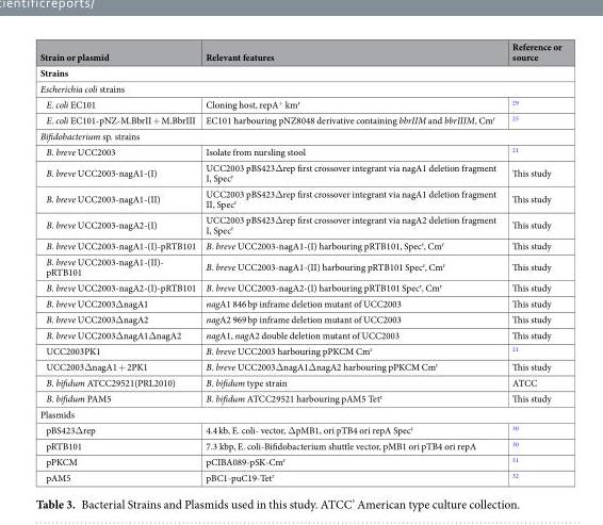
<table><thead><tr><td>Strain or plasmid</td><td>Relevant features</td><td>Reference or source</td></tr></thead><tbody><tr><td colspan="3">Strains</td></tr><tr><td colspan="3">Escherichia coli strains</td></tr><tr><td>E. coli EC101</td><td>Cloning host, repA<sup>+</sup> km<sup>r</sup></td><td><sup>29</sup></td></tr><tr><td>E. coli EC101-pNZ-M.BbrII + M.BbrIII</td><td>EC101 harbouring pNZ8048 derivative containing bbrIIM and bbrIIIM, Cm<sup>r</sup></td><td><sup>25</sup></td></tr><tr><td colspan="3">Bifidobacterium sp. strains</td></tr><tr><td>B. breve UCC2003</td><td>Isolate from nursling stool</td><td><sup>21</sup></td></tr><tr><td>B. breve UCC2003-nagA1-(I)</td><td>UCC2003 pBS423Δrep first crossover integrant via nagA1 deletion fragment I, Spec<sup>r</sup></td><td>This study</td></tr><tr><td>B. breve UCC2003-nagA1-(II)</td><td>UCC2003 pBS423Δrep first crossover integrant via nagA1 deletion fragment II, Spec<sup>r</sup></td><td>This study</td></tr><tr><td>B. breve UCC2003-nagA2-(I)</td><td>UCC2003 pBS423Δrep first crossover integrant via nagA2 deletion fragment I, Spec<sup>r</sup></td><td>This study</td></tr><tr><td>B. breve UCC2003-nagA1-(I)-pRTB101</td><td>B. breve UCC2003-nagA1-(I) harbouring pRTB101, Spec<sup>r</sup>, Cm<sup>r</sup></td><td>This study</td></tr><tr><td>B. breve UCC2003-nagA1-(II)- pRTB101</td><td>B. breve UCC2003-nagA1-(II) harbouring pRTB101 Spec<sup>r</sup>, Cm<sup>r</sup></td><td>This study</td></tr><tr><td>B. breve UCC2003-nagA2-(I)-pRTB101</td><td>B. breve UCC2003-nagA2-(I) harbouring pRTB101 Spec<sup>r</sup>, Cm<sup>r</sup></td><td>This study</td></tr><tr><td>B. breve UCC2003ΔnagA1</td><td>nagA1 846 bp inframe deletion mutant of UCC2003</td><td>This study</td></tr><tr><td>B. breve UCC2003ΔnagA2</td><td>nagA2 969 bp inframe deletion mutant of UCC2003</td><td>This study</td></tr><tr><td>B. breve UCC2003ΔnagA1ΔnagA2</td><td>nagA1, nagA2 double deletion mutant of UCC2003</td><td>This study</td></tr><tr><td>UCC2003PK1</td><td>B. breve UCC2003 harbouring pPKCM Cm<sup>r</sup></td><td><sup>21</sup></td></tr><tr><td>UCC2003ΔnagA1 + 2PK1</td><td>B. breve UCC2003ΔnagA1ΔnagA2 harbouring pPKCM Cm<sup>r</sup></td><td>This study</td></tr><tr><td>B. bifidum ATCC29521(PRL2010)</td><td>B. bifidum type strain</td><td>ATCC</td></tr><tr><td>B. bifidum PAM5</td><td>B. bifidum ATCC29521 harbouring pAM5 Tet<sup>r</sup></td><td>This study</td></tr><tr><td colspan="3">Plasmids</td></tr><tr><td>pBS423Δrep</td><td>4.4 kb, E. coli- vector, ΔpMB1, ori pTB4 ori repA Spec<sup>r</sup></td><td><sup>30</sup></td></tr><tr><td>pRTB101</td><td>7.3 kbp, E. coli-Bifidobacterium shuttle vector, pMB1 ori pTB4 ori repA</td><td><sup>30</sup></td></tr><tr><td>pPKCM</td><td>pCIBA089-pSK-Cm<sup>r</sup></td><td><sup>31</sup></td></tr><tr><td>pAM5</td><td>pBC1-puC19-Tet<sup>r</sup></td><td><sup>32</sup></td></tr></tbody></table>